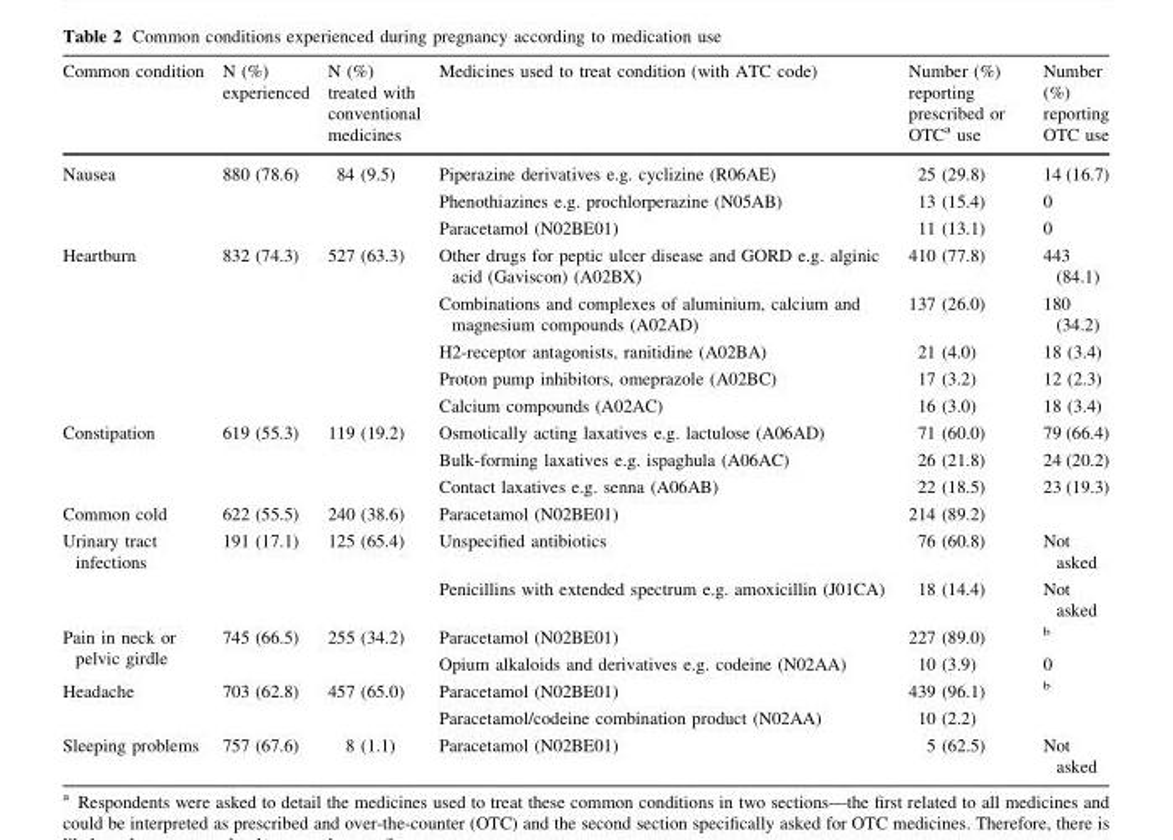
<table><thead><tr><td>Common condition</td><td>N (%) experienced</td><td>N (%) treated with conventional medicines</td><td>Medicines used to treat condition (with ATC code)</td><td>Number (%) reporting prescribed or OTC<sup>a</sup> use</td><td>Number (%) reporting OTC use</td></tr></thead><tbody><tr><td rowspan="3">Nausea</td><td rowspan="3">880 (78.6)</td><td rowspan="3">84 (9.5)</td><td>Piperazine derivatives e.g. cyclizine (R06AE)</td><td>25 (29.8)</td><td>14 (16.7)</td></tr><tr><td>Phenothiazines e.g. prochlorperazine (N05AB)</td><td>13 (15.4)</td><td>0</td></tr><tr><td>Paracetamol (N02BE01)</td><td>11 (13.1)</td><td>0</td></tr><tr><td rowspan="5">Heartburn</td><td rowspan="5">832 (74.3)</td><td rowspan="5">527 (63.3)</td><td>Other drugs for peptic ulcer disease and GORD e.g. alginic acid (Gaviscon) (A02BX)</td><td>410 (77.8)</td><td>443 (84.1)</td></tr><tr><td>Combinations and complexes of aluminium, calcium and magnesium compounds (A02AD)</td><td>137 (26.0)</td><td>180 (34.2)</td></tr><tr><td>H2-receptor antagonists, ranitidine (A02BA)</td><td>21 (4.0)</td><td>18 (3.4)</td></tr><tr><td>Proton pump inhibitors, omeprazole (A02BC)</td><td>17 (3.2)</td><td>12 (2.3)</td></tr><tr><td>Calcium compounds (A02AC)</td><td>16 (3.0)</td><td>18 (3.4)</td></tr><tr><td rowspan="3">Constipation</td><td rowspan="3">619 (55.3)</td><td rowspan="3">119 (19.2)</td><td>Osmotically acting laxatives e.g. lactulose (A06AD)</td><td>71 (60.0)</td><td>79 (66.4)</td></tr><tr><td>Bulk-forming laxatives e.g. ispaghula (A06AC)</td><td>26 (21.8)</td><td>24 (20.2)</td></tr><tr><td>Contact laxatives e.g. senna (A06AB)</td><td>22 (18.5)</td><td>23 (19.3)</td></tr><tr><td>Common cold</td><td>622 (55.5)</td><td>240 (38.6)</td><td>Paracetamol (N02BE01)</td><td>214 (89.2)</td><td></td></tr><tr><td rowspan="2">Urinary tract infections</td><td rowspan="2">191 (17.1)</td><td rowspan="2">125 (65.4)</td><td>Unspecified antibiotics</td><td>76 (60.8)</td><td>Not asked</td></tr><tr><td>Penicillins with extended spectrum e.g. amoxicillin (J01CA)</td><td>18 (14.4)</td><td>Not asked</td></tr><tr><td rowspan="2">Pain in neck or pelvic girdle</td><td rowspan="2">745 (66.5)</td><td rowspan="2">255 (34.2)</td><td>Paracetamol (N02BE01)</td><td>227 (89.0)</td><td><sup>b</sup></td></tr><tr><td>Opium alkaloids and derivatives e.g. codeine (N02AA)</td><td>10 (3.9)</td><td>0</td></tr><tr><td rowspan="2">Headache</td><td rowspan="2">703 (62.8)</td><td rowspan="2">457 (65.0)</td><td>Paracetamol (N02BE01)</td><td>439 (96.1)</td><td><sup>b</sup></td></tr><tr><td>Paracetamol/codeine combination product (N02AA)</td><td>10 (2.2)</td><td></td></tr><tr><td>Sleeping problems</td><td>757 (67.6)</td><td>8 (1.1)</td><td>Paracetamol (N02BE01)</td><td>5 (62.5)</td><td>Not asked</td></tr></tbody></table>